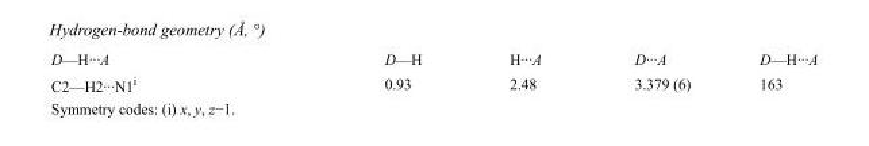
<table><tbody><tr><td>D—H···A</td><td>D—H</td><td>H···A</td><td>D···A</td><td>D—H···A</td></tr><tr><td>C2—H2···N1<sup>i</sup></td><td>0.93</td><td>2.48</td><td>3.379 (6)</td><td>163</td></tr></tbody></table>